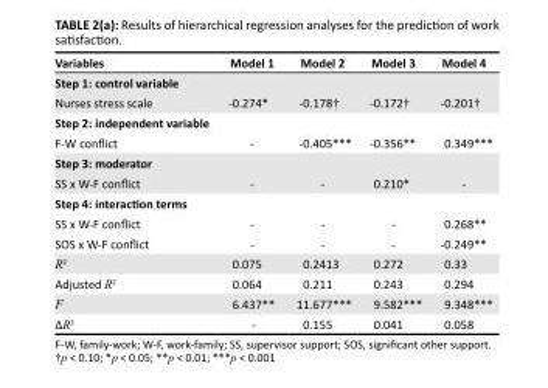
<table><thead><tr><td>Variables</td><td>Model 1</td><td>Model 2</td><td>Model 3</td><td>Model 4</td></tr></thead><tbody><tr><td colspan="5">Step 1: control variable</td></tr><tr><td>Nurses stress scale</td><td>-0.274*</td><td>-0.178†</td><td>-0.172†</td><td>-0.201†</td></tr><tr><td colspan="5">Step 2: independent variable</td></tr><tr><td>F-W conflict</td><td>-</td><td>-0.405***</td><td>-0.356**</td><td>0.349***</td></tr><tr><td colspan="5">Step 3: moderator</td></tr><tr><td>SS x W-F conflict</td><td>-</td><td>-</td><td>0.210*</td><td>-</td></tr><tr><td colspan="5">Step 4: interaction terms</td></tr><tr><td>SS x W-F conflict</td><td>-</td><td>-</td><td>-</td><td>0.268**</td></tr><tr><td>SOS x W-F conflict</td><td>-</td><td>-</td><td>-</td><td>-0.249**</td></tr><tr><td>R<sup>2</sup></td><td>0.075</td><td>0.2413</td><td>0.272</td><td>0.33</td></tr><tr><td>Adjusted R<sup>2</sup></td><td>0.064</td><td>0.211</td><td>0.243</td><td>0.294</td></tr><tr><td>F</td><td>6.437**</td><td>11.677***</td><td>9.582***</td><td>9.348***</td></tr><tr><td>∆R<sup>2</sup></td><td>-</td><td>0.155</td><td>0.041</td><td>0.058</td></tr></tbody></table>